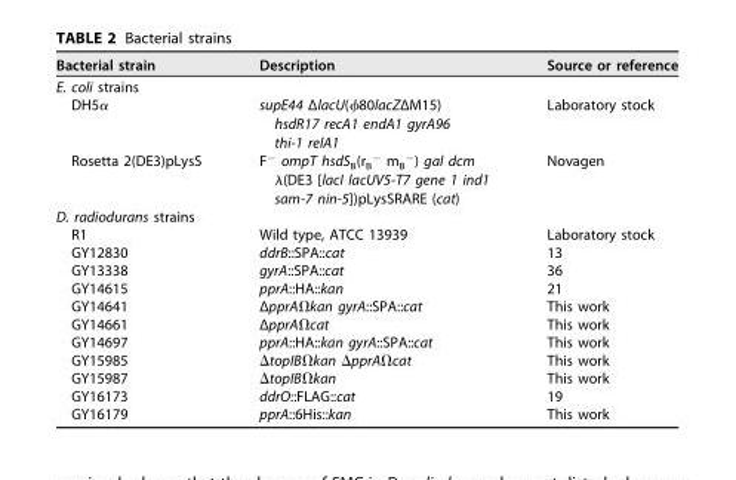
<table><thead><tr><td>Bacterial strain</td><td>Description</td><td>Source or reference</td></tr></thead><tbody><tr><td colspan="3">E. coli strains</td></tr><tr><td>DH5α</td><td>supE44 ΔlacU(ϕ80lacZΔM15) hsdR17 recA1 endA1 gyrA96 thi-1 relA1</td><td>Laboratory stock</td></tr><tr><td>Rosetta 2(DE3)pLysS</td><td>F<sup>−</sup> ompT hsdS<sub>B</sub>(r<sub>B</sub><sup>−</sup> m<sub>B</sub><sup>−</sup>) gal dcm λ(DE3 [lacI lacUV5-T7 gene 1 ind1 sam-7 nin-5])pLysSRARE (cat)</td><td>Novagen</td></tr><tr><td colspan="3">D. radiodurans strains</td></tr><tr><td>R1</td><td>Wild type, ATCC 13939</td><td>Laboratory stock</td></tr><tr><td>GY12830</td><td>ddrB::SPA::cat</td><td>13</td></tr><tr><td>GY13338</td><td>gyrA::SPA::cat</td><td>36</td></tr><tr><td>GY14615</td><td>pprA::HA::kan</td><td>21</td></tr><tr><td>GY14641</td><td>ΔpprAΩkan gyrA::SPA::cat</td><td>This work</td></tr><tr><td>GY14661</td><td>ΔpprAΩcat</td><td>This work</td></tr><tr><td>GY14697</td><td>pprA::HA::kan gyrA::SPA::cat</td><td>This work</td></tr><tr><td>GY15985</td><td>ΔtopIBΩkan ΔpprAΩcat</td><td>This work</td></tr><tr><td>GY15987</td><td>ΔtopIBΩkan</td><td>This work</td></tr><tr><td>GY16173</td><td>ddrO::FLAG::cat</td><td>19</td></tr><tr><td>GY16179</td><td>pprA::6His::kan</td><td>This work</td></tr></tbody></table>